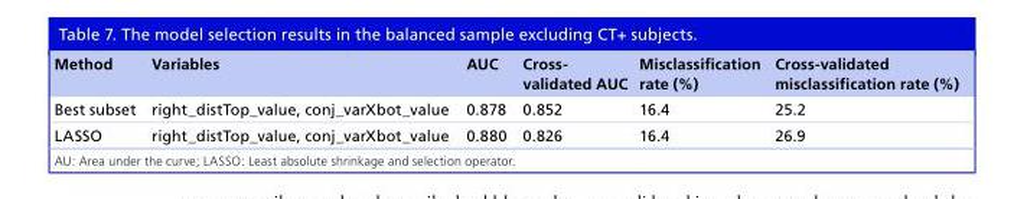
<table><thead><tr><td>Method</td><td>Variables</td><td>AUC</td><td>Cross- validated AUC</td><td>Misclassification rate (%)</td><td>Cross-validated misclassification rate (%)</td></tr></thead><tbody><tr><td>Best subset</td><td>right_distTop_value, conj_varXbot_value</td><td>0.878</td><td>0.852</td><td>16.4</td><td>25.2</td></tr><tr><td>LASSO</td><td>right_distTop_value, conj_varXbot_value</td><td>0.880</td><td>0.826</td><td>16.4</td><td>26.9</td></tr></tbody></table>